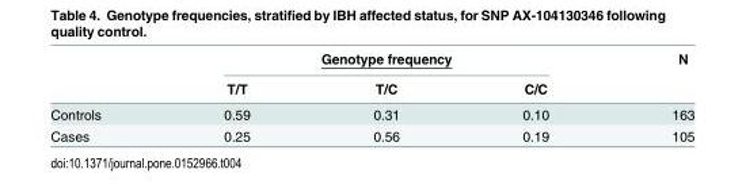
<table><thead><tr><td rowspan="2"></td><td colspan="3">Genotype frequency</td><td rowspan="2">N</td></tr><tr><td>T/T</td><td>T/C</td><td>C/C</td></tr></thead><tbody><tr><td>Controls</td><td>0.59</td><td>0.31</td><td>0.10</td><td>163</td></tr><tr><td>Cases</td><td>0.25</td><td>0.56</td><td>0.19</td><td>105</td></tr></tbody></table>